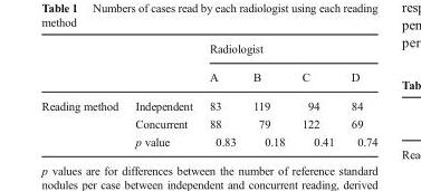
<table><thead><tr><td rowspan="2"></td><td rowspan="2"></td><td colspan="4">Radiologist</td></tr><tr><td>A</td><td>B</td><td>C</td><td>D</td></tr></thead><tbody><tr><td rowspan="3">Reading method</td><td>Independent</td><td>83</td><td>119</td><td>94</td><td>84</td></tr><tr><td>Concurrent</td><td>88</td><td>79</td><td>122</td><td>69</td></tr><tr><td>p value</td><td>0.83</td><td>0.18</td><td>0.41</td><td>0.74</td></tr></tbody></table>